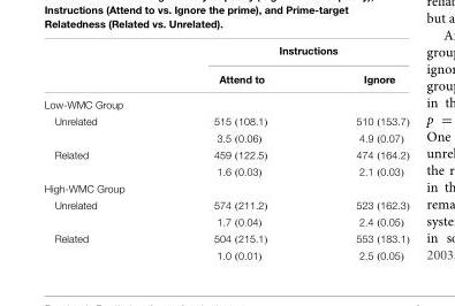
<table><thead><tr><td rowspan="2"></td><td colspan="2">Instructions</td></tr><tr><td>Attend to</td><td>Ignore</td></tr></thead><tbody><tr><td colspan="3">Low-WMC Group</td></tr><tr><td rowspan="2">Unrelated</td><td>515 (108.1)</td><td>510 (153.7)</td></tr><tr><td>3.5 (0.06)</td><td>4.9 (0.07)</td></tr><tr><td rowspan="2">Related</td><td>459 (122.5)</td><td>474 (164.2)</td></tr><tr><td>1.6 (0.03)</td><td>2.1 (0.03)</td></tr><tr><td colspan="3">High-WMC Group</td></tr><tr><td rowspan="2">Unrelated</td><td>574 (211.2)</td><td>523 (162.3)</td></tr><tr><td>1.7 (0.04)</td><td>2.4 (0.05)</td></tr><tr><td rowspan="2">Related</td><td>504 (215.1)</td><td>553 (183.1)</td></tr><tr><td>1.0 (0.01)</td><td>2.5 (0.05)</td></tr></tbody></table>